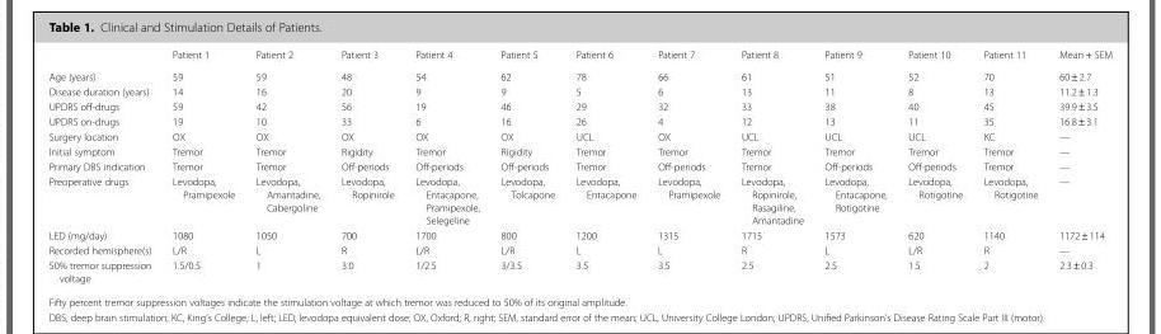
<table><thead><tr><td></td><td>Patient 1</td><td>Patient 2</td><td>Patient 3</td><td>Patient 4</td><td>Patient 5</td><td>Patient 6</td><td>Patient 7</td><td>Patient 8</td><td>Patient 9</td><td>Patient 10</td><td>Patient 11</td><td>Mean + SEM</td></tr></thead><tbody><tr><td>Age (years)</td><td>59</td><td>59</td><td>48</td><td>54</td><td>62</td><td>78</td><td>66</td><td>61</td><td>51</td><td>52</td><td>70</td><td>60 ± 2.7</td></tr><tr><td>Disease duration (years)</td><td>14</td><td>16</td><td>20</td><td>9</td><td>9</td><td>5</td><td>6</td><td>13</td><td>11</td><td>8</td><td>13</td><td>11.2 ± 1.3</td></tr><tr><td>UPDRS off-drugs</td><td>59</td><td>42</td><td>56</td><td>19</td><td>46</td><td>29</td><td>32</td><td>33</td><td>38</td><td>40</td><td>45</td><td>39.9 ± 3.5</td></tr><tr><td>UPDRS on-drugs</td><td>19</td><td>10</td><td>33</td><td>6</td><td>16</td><td>26</td><td>4</td><td>12</td><td>13</td><td>11</td><td>35</td><td>16.8 ± 3.1</td></tr><tr><td>Surgery location</td><td>OX</td><td>OX</td><td>OX</td><td>OX</td><td>OX</td><td>UCL</td><td>OX</td><td>UCL</td><td>UCL</td><td>UCL</td><td>KC</td><td>—</td></tr><tr><td>Initial symptom</td><td>Tremor</td><td>Tremor</td><td>Rigidity</td><td>Tremor</td><td>Rigidity</td><td>Tremor</td><td>Tremor</td><td>Tremor</td><td>Tremor</td><td>Tremor</td><td>Tremor</td><td>—</td></tr><tr><td>Primary DBS indication</td><td>Tremor</td><td>Tremor</td><td>Off-periods</td><td>Off-periods</td><td>Off-periods</td><td>Tremor</td><td>Off-periods</td><td>Tremor</td><td>Off-periods</td><td>Off-periods</td><td>Tremor</td><td>—</td></tr><tr><td>Preoperative drugs</td><td>Levodopa, Pramipexole</td><td>Levodopa, Amantadine, Cabergoline</td><td>Levodopa, Ropinirole</td><td>Levodopa, Entacapone, Pramipexole, Selegeline</td><td>Levodopa, Tolcapone</td><td>Levodopa, Entacapone</td><td>Levodopa, Pramipexole</td><td>Levodopa, Ropinirole, Rasagiline, Amantadine</td><td>Levodopa, Entacapone, Rotigotine</td><td>Levodopa, Rotigotine</td><td>Levodopa, Rotigotine</td><td>—</td></tr><tr><td>LED (mg/day)</td><td>1080</td><td>1050</td><td>700</td><td>1700</td><td>800</td><td>1200</td><td>1315</td><td>1715</td><td>1573</td><td>620</td><td>1140</td><td>1172 ± 114</td></tr><tr><td>Recorded hemisphere(s)</td><td>L/R</td><td>L</td><td>R</td><td>L/R</td><td>L/R</td><td>L</td><td>L</td><td>R</td><td>L</td><td>L/R</td><td>R</td><td>—</td></tr><tr><td>50% tremor suppression voltage</td><td>1.5/0.5</td><td>1</td><td>3.0</td><td>1/2.5</td><td>3/3.5</td><td>3.5</td><td>3.5</td><td>2.5</td><td>2.5</td><td>1.5</td><td>2</td><td>2.3 ± 0.3</td></tr></tbody></table>